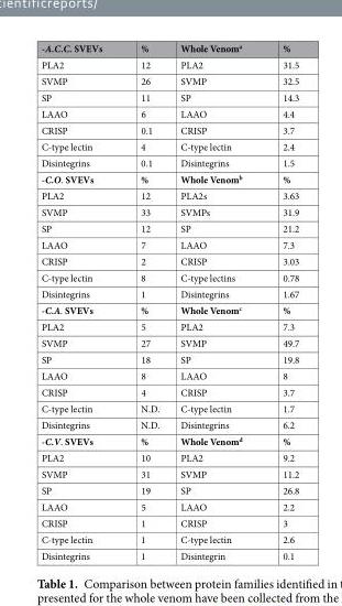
<table><thead><tr><td>-A.C.C. SVEVs</td><td>%</td><td>Whole Venom<sup>a</sup></td><td>%</td></tr></thead><tbody><tr><td>PLA2</td><td>12</td><td>PLA2</td><td>31.5</td></tr><tr><td>SVMP</td><td>26</td><td>SVMP</td><td>32.5</td></tr><tr><td>SP</td><td>11</td><td>SP</td><td>14.3</td></tr><tr><td>LAAO</td><td>6</td><td>LAAO</td><td>4.4</td></tr><tr><td>CRISP</td><td>0.1</td><td>CRISP</td><td>3.7</td></tr><tr><td>C-type lectin</td><td>4</td><td>C-type lectin</td><td>2.4</td></tr><tr><td>Disintegrins</td><td>0.1</td><td>Disintegrins</td><td>1.5</td></tr><tr><td>-C.O. SVEVs</td><td>%</td><td>Whole Venom<sup>b</sup></td><td>%</td></tr><tr><td>PLA2</td><td>12</td><td>PLA2s</td><td>3.63</td></tr><tr><td>SVMP</td><td>33</td><td>SVMPs</td><td>31.9</td></tr><tr><td>SP</td><td>12</td><td>SP</td><td>21.2</td></tr><tr><td>LAAO</td><td>7</td><td>LAAO</td><td>7.3</td></tr><tr><td>CRISP</td><td>2</td><td>CRISP</td><td>3.03</td></tr><tr><td>C-type lectin</td><td>8</td><td>C-type lectins</td><td>0.78</td></tr><tr><td>Disintegrins</td><td>1</td><td>Disintegrins</td><td>1.67</td></tr><tr><td>-C.A. SVEVs</td><td>%</td><td>Whole Venom<sup>c</sup></td><td>%</td></tr><tr><td>PLA2</td><td>5</td><td>PLA2</td><td>7.3</td></tr><tr><td>SVMP</td><td>27</td><td>SVMP</td><td>49.7</td></tr><tr><td>SP</td><td>18</td><td>SP</td><td>19.8</td></tr><tr><td>LAAO</td><td>8</td><td>LAAO</td><td>8</td></tr><tr><td>CRISP</td><td>4</td><td>CRISP</td><td>3.7</td></tr><tr><td>C-type lectin</td><td>N.D.</td><td>C-type lectin</td><td>1.7</td></tr><tr><td>Disintegrins</td><td>N.D.</td><td>Disintegrins</td><td>6.2</td></tr><tr><td>-C.V. SVEVs</td><td>%</td><td>Whole Venom<sup>d</sup></td><td>%</td></tr><tr><td>PLA2</td><td>10</td><td>PLA2</td><td>9.2</td></tr><tr><td>SVMP</td><td>31</td><td>SVMP</td><td>11.2</td></tr><tr><td>SP</td><td>19</td><td>SP</td><td>26.8</td></tr><tr><td>LAAO</td><td>5</td><td>LAAO</td><td>2.2</td></tr><tr><td>CRISP</td><td>1</td><td>CRISP</td><td>3</td></tr><tr><td>C-type lectin</td><td>1</td><td>C-type lectin</td><td>2.6</td></tr><tr><td>Disintegrins</td><td>1</td><td>Disintegrin</td><td>0.1</td></tr></tbody></table>